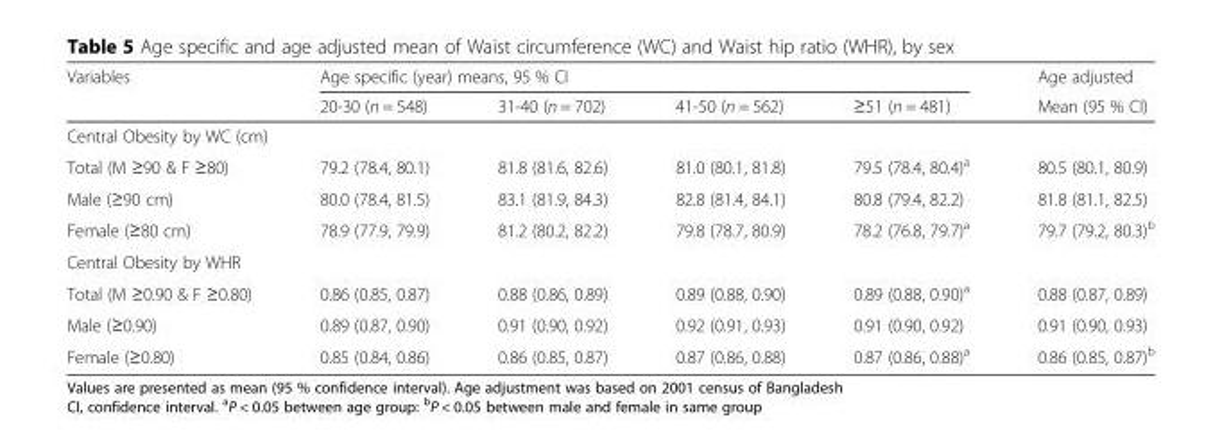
<table><thead><tr><td rowspan="2">Variables</td><td colspan="4">Age specific (year) means, 95 % CI</td><td rowspan="2">Age adjusted Mean (95 % CI)</td></tr><tr><td>20-30 (n = 548)</td><td>31-40 (n = 702)</td><td>41-50 (n = 562)</td><td>≥51 (n = 481)</td></tr></thead><tbody><tr><td colspan="6">Central Obesity by WC (cm)</td></tr><tr><td>Total (M ≥90 &amp; F ≥80)</td><td>79.2 (78.4, 80.1)</td><td>81.8 (81.6, 82.6)</td><td>81.0 (80.1, 81.8)</td><td>79.5 (78.4, 80.4)<sup>a</sup></td><td>80.5 (80.1, 80.9)</td></tr><tr><td>Male (≥90 cm)</td><td>80.0 (78.4, 81.5)</td><td>83.1 (81.9, 84.3)</td><td>82.8 (81.4, 84.1)</td><td>80.8 (79.4, 82.2)</td><td>81.8 (81.1, 82.5)</td></tr><tr><td>Female (≥80 cm)</td><td>78.9 (77.9, 79.9)</td><td>81.2 (80.2, 82.2)</td><td>79.8 (78.7, 80.9)</td><td>78.2 (76.8, 79.7)<sup>a</sup></td><td>79.7 (79.2, 80.3)<sup>b</sup></td></tr><tr><td colspan="6">Central Obesity by WHR</td></tr><tr><td>Total (M ≥0.90 &amp; F ≥0.80)</td><td>0.86 (0.85, 0.87)</td><td>0.88 (0.86, 0.89)</td><td>0.89 (0.88, 0.90)</td><td>0.89 (0.88, 0.90)<sup>a</sup></td><td>0.88 (0.87, 0.89)</td></tr><tr><td>Male (≥0.90)</td><td>0.89 (0.87, 0.90)</td><td>0.91 (0.90, 0.92)</td><td>0.92 (0.91, 0.93)</td><td>0.91 (0.90, 0.92)</td><td>0.91 (0.90, 0.93)</td></tr><tr><td>Female (≥0.80)</td><td>0.85 (0.84, 0.86)</td><td>0.86 (0.85, 0.87)</td><td>0.87 (0.86, 0.88)</td><td>0.87 (0.86, 0.88)<sup>a</sup></td><td>0.86 (0.85, 0.87)<sup>b</sup></td></tr></tbody></table>